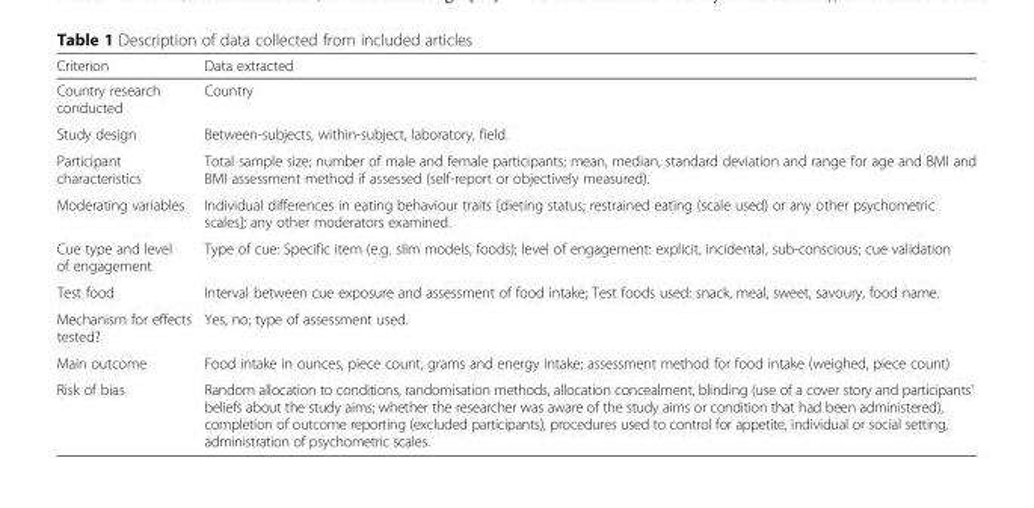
<table><thead><tr><td>Criterion</td><td>Data extracted</td></tr></thead><tbody><tr><td>Country research conducted</td><td>Country</td></tr><tr><td>Study design</td><td>Between-subjects, within-subject, laboratory, field.</td></tr><tr><td>Participant characteristics</td><td>Total sample size; number of male and female participants; mean, median, standard deviation and range for age and BMI and BMI assessment method if assessed (self-report or objectively measured).</td></tr><tr><td>Moderating variables</td><td>Individual differences in eating behaviour traits [dieting status; restrained eating (scale used) or any other psychometric scales]; any other moderators examined.</td></tr><tr><td>Cue type and level of engagement</td><td>Type of cue: Specific item (e.g. slim models, foods); level of engagement: explicit, incidental, sub-conscious; cue validation</td></tr><tr><td>Test food</td><td>Interval between cue exposure and assessment of food intake; Test foods used: snack, meal, sweet, savoury, food name.</td></tr><tr><td>Mechanism for effects tested?</td><td>Yes, no; type of assessment used.</td></tr><tr><td>Main outcome</td><td>Food intake in ounces, piece count, grams and energy intake; assessment method for food intake (weighed, piece count)</td></tr><tr><td>Risk of bias</td><td>Random allocation to conditions, randomisation methods, allocation concealment, blinding (use of a cover story and participants&#x27; beliefs about the study aims; whether the researcher was aware of the study aims or condition that had been administered), completion of outcome reporting (excluded participants), procedures used to control for appetite, individual or social setting, administration of psychometric scales.</td></tr></tbody></table>